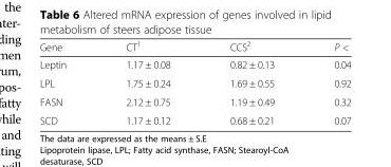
<table><thead><tr><td>Gene</td><td>CT<sup>1</sup></td><td>CCS<sup>2</sup></td><td>P &lt;</td></tr></thead><tbody><tr><td>Leptin</td><td>1.17 ± 0.08</td><td>0.82 ± 0.13</td><td>0.04</td></tr><tr><td>LPL</td><td>1.75 ± 0.24</td><td>1.69 ± 0.55</td><td>0.92</td></tr><tr><td>FASN</td><td>2.12 ± 0.75</td><td>1.19 ± 0.49</td><td>0.32</td></tr><tr><td>SCD</td><td>1.17 ± 0.12</td><td>0.68 ± 0.21</td><td>0.07</td></tr></tbody></table>